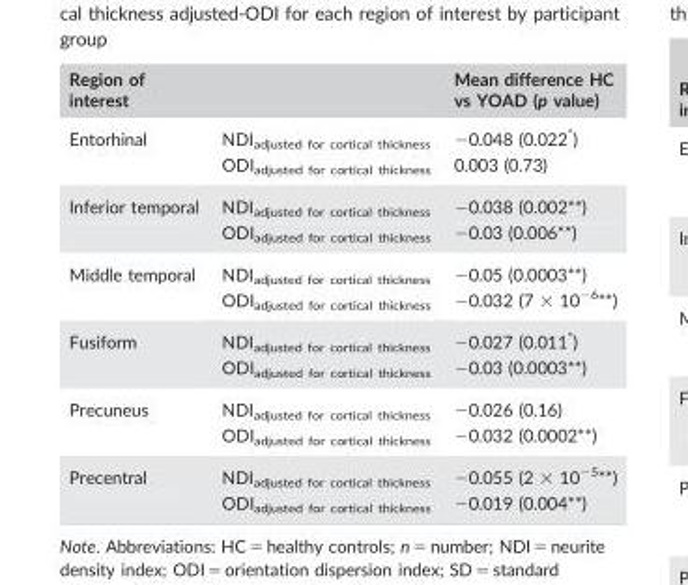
<table><thead><tr><td colspan="2">Region of interest</td><td rowspan="2">Mean difference HC vs YOAD (p value) −0.048 (0.022*)</td></tr><tr><td>Entorhinal</td><td>NDI<sub>adjusted for cortical thickness</sub></td></tr></thead><tbody><tr><td></td><td>ODI<sub>adjusted for cortical thickness</sub></td><td>0.003 (0.73)</td></tr><tr><td rowspan="2">Inferior temporal</td><td>NDI<sub>adjusted for cortical thickness</sub></td><td>−0.038 (0.002**)</td></tr><tr><td>ODI<sub>adjusted for cortical thickness</sub></td><td>−0.03 (0.006**)</td></tr><tr><td rowspan="2">Middle temporal</td><td>NDI<sub>adjusted for cortical thickness</sub></td><td>−0.05 (0.0003**)</td></tr><tr><td>ODI<sub>adjusted for cortical thickness</sub></td><td>−0.032 (7 × 10<sup>−6</sup>**)</td></tr><tr><td rowspan="2">Fusiform</td><td>NDI<sub>adjusted for cortical thickness</sub></td><td>−0.027 (0.011*)</td></tr><tr><td>ODI<sub>adjusted for cortical thickness</sub></td><td>−0.03 (0.0003**)</td></tr><tr><td rowspan="2">Precuneus</td><td>NDI<sub>adjusted for cortical thickness</sub></td><td>−0.026 (0.16)</td></tr><tr><td>ODI<sub>adjusted for cortical thickness</sub></td><td>−0.032 (0.0002**)</td></tr><tr><td rowspan="2">Precentral</td><td>NDI<sub>adjusted for cortical thickness</sub></td><td>−0.055 (2 × 10<sup>−5</sup>**)</td></tr><tr><td>ODI<sub>adjusted for cortical thickness</sub></td><td>−0.019 (0.004**)</td></tr></tbody></table>